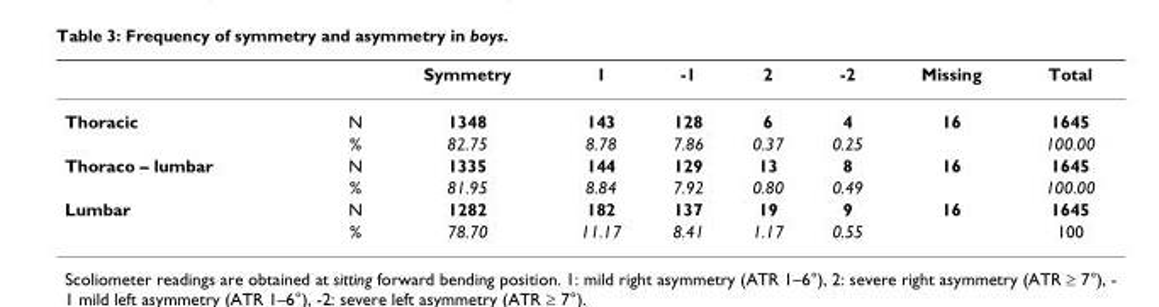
<table><thead><tr><td></td><td></td><td>Symmetry</td><td>1</td><td>-1</td><td>2</td><td>-2</td><td>Missing</td><td>Total</td></tr></thead><tbody><tr><td rowspan="2">Thoracic</td><td>N</td><td>1348</td><td>143</td><td>128</td><td>6</td><td>4</td><td>16</td><td>1645</td></tr><tr><td>%</td><td>82.75</td><td>8.78</td><td>7.86</td><td>0.37</td><td>0.25</td><td></td><td>100.00</td></tr><tr><td rowspan="2">Thoraco – lumbar</td><td>N</td><td>1335</td><td>144</td><td>129</td><td>13</td><td>8</td><td>16</td><td>1645</td></tr><tr><td>%</td><td>81.95</td><td>8.84</td><td>7.92</td><td>0.80</td><td>0.49</td><td></td><td>100.00</td></tr><tr><td rowspan="2">Lumbar</td><td>N</td><td>1282</td><td>182</td><td>137</td><td>19</td><td>9</td><td>16</td><td>1645</td></tr><tr><td>%</td><td>78.70</td><td>11.17</td><td>8.41</td><td>1.17</td><td>0.55</td><td></td><td>100</td></tr></tbody></table>